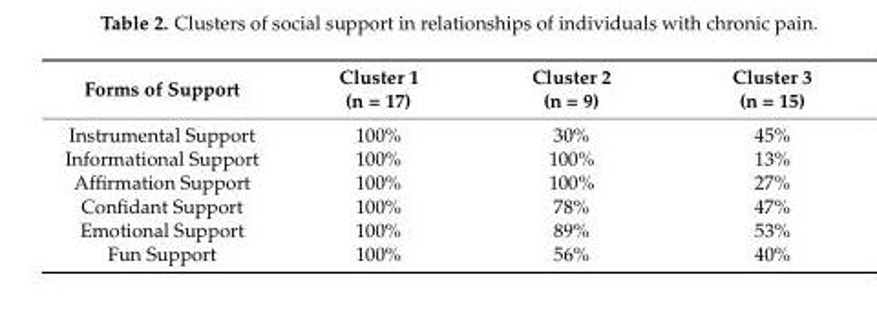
<table><thead><tr><td>Forms of Support</td><td>Cluster 1 (n = 17)</td><td>Cluster 2 (n = 9)</td><td>Cluster 3 (n = 15)</td></tr></thead><tbody><tr><td>Instrumental Support</td><td>100%</td><td>30%</td><td>45%</td></tr><tr><td>Informational Support</td><td>100%</td><td>100%</td><td>13%</td></tr><tr><td>Affirmation Support</td><td>100%</td><td>100%</td><td>27%</td></tr><tr><td>Confidant Support</td><td>100%</td><td>78%</td><td>47%</td></tr><tr><td>Emotional Support</td><td>100%</td><td>89%</td><td>53%</td></tr><tr><td>Fun Support</td><td>100%</td><td>56%</td><td>40%</td></tr></tbody></table>